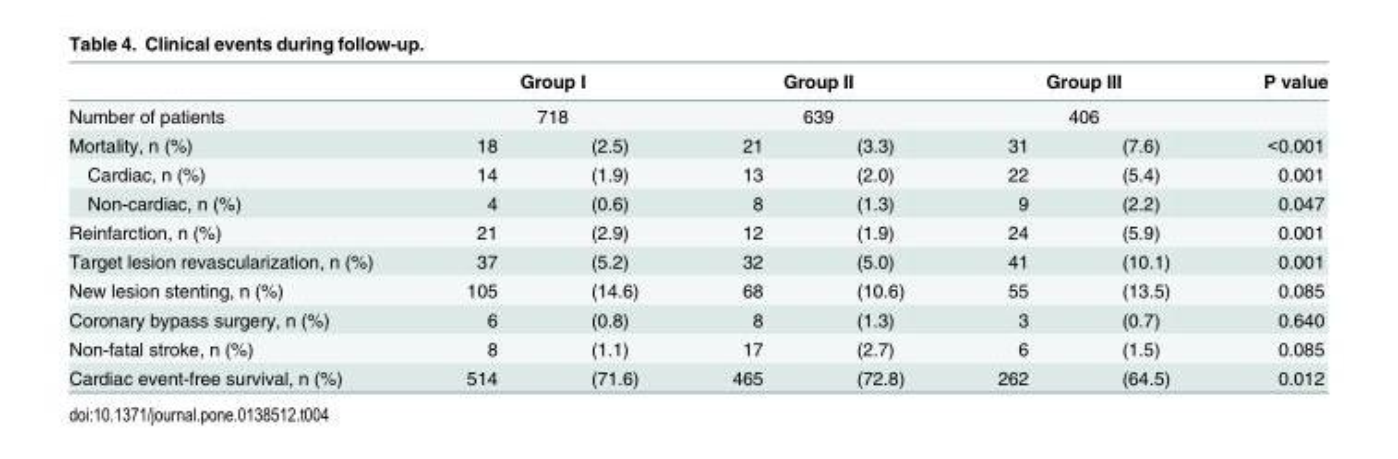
<table><thead><tr><td rowspan="3">Number of patients Mortality, n (%)</td><td rowspan="2" colspan="2">Group I 718</td><td rowspan="2" colspan="2">Group II 639</td><td rowspan="2" colspan="2">Group III 406</td><td rowspan="3">P value &lt;0.001</td></tr><tr></tr><tr><td>18</td><td>(2.5)</td><td>21</td><td>(3.3)</td><td>31</td><td>(7.6)</td></tr></thead><tbody><tr><td>Cardiac, n (%)</td><td>14</td><td>(1.9)</td><td>13</td><td>(2.0)</td><td>22</td><td>(5.4)</td><td>0.001</td></tr><tr><td>Non-cardiac, n (%)</td><td>4</td><td>(0.6)</td><td>8</td><td>(1.3)</td><td>9</td><td>(2.2)</td><td>0.047</td></tr><tr><td>Reinfarction, n (%)</td><td>21</td><td>(2.9)</td><td>12</td><td>(1.9)</td><td>24</td><td>(5.9)</td><td>0.001</td></tr><tr><td>Target lesion revascularization, n (%)</td><td>37</td><td>(5.2)</td><td>32</td><td>(5.0)</td><td>41</td><td>(10.1)</td><td>0.001</td></tr><tr><td>New lesion stenting, n (%)</td><td>105</td><td>(14.6)</td><td>68</td><td>(10.6)</td><td>55</td><td>(13.5)</td><td>0.085</td></tr><tr><td>Coronary bypass surgery, n (%)</td><td>6</td><td>(0.8)</td><td>8</td><td>(1.3)</td><td>3</td><td>(0.7)</td><td>0.640</td></tr><tr><td>Non-fatal stroke, n (%)</td><td>8</td><td>(1.1)</td><td>17</td><td>(2.7)</td><td>6</td><td>(1.5)</td><td>0.085</td></tr><tr><td>Cardiac event-free survival, n (%)</td><td>514</td><td>(71.6)</td><td>465</td><td>(72.8)</td><td>262</td><td>(64.5)</td><td>0.012</td></tr></tbody></table>